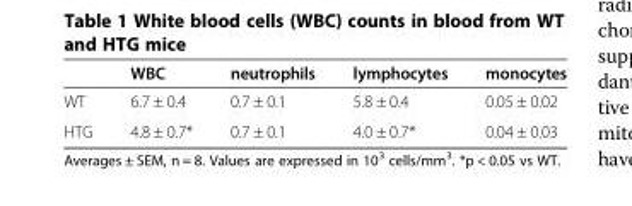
<table><thead><tr><td></td><td>WBC</td><td>neutrophils</td><td>lymphocytes</td><td>monocytes</td></tr></thead><tbody><tr><td>WT</td><td>6.7 ± 0.4</td><td>0.7 ± 0.1</td><td>5.8 ± 0.4</td><td>0.05 ± 0.02</td></tr><tr><td>HTG</td><td>4.8 ± 0.7*</td><td>0.7 ± 0.1</td><td>4.0 ± 0.7*</td><td>0.04 ± 0.03</td></tr></tbody></table>